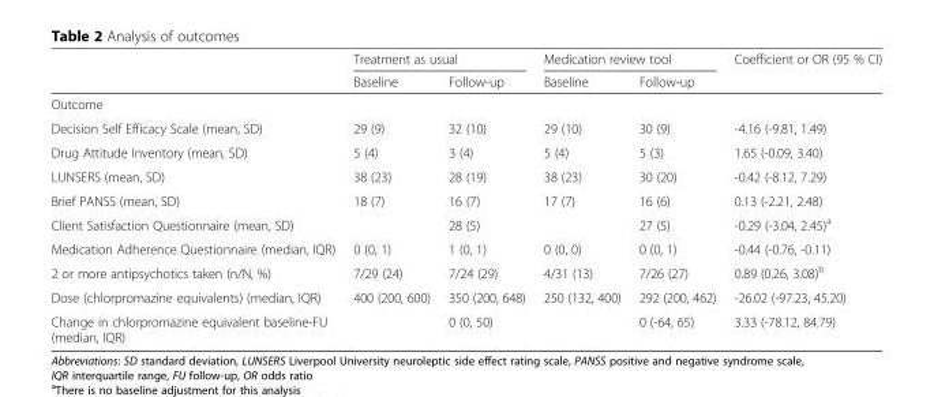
<table><thead><tr><td rowspan="2"></td><td colspan="2">Treatment as usual</td><td colspan="2">Medication review tool</td><td rowspan="2">Coefficient or OR (95 % CI)</td></tr><tr><td>Baseline</td><td>Follow-up</td><td>Baseline</td><td>Follow-up</td></tr></thead><tbody><tr><td colspan="6">Outcome</td></tr><tr><td>Decision Self Efficacy Scale (mean, SD)</td><td>29 (9)</td><td>32 (10)</td><td>29 (10)</td><td>30 (9)</td><td>-4.16 (-9.81, 1.49)</td></tr><tr><td>Drug Attitude Inventory (mean, SD)</td><td>5 (4)</td><td>3 (4)</td><td>5 (4)</td><td>5 (3)</td><td>1.65 (-0.09, 3.40)</td></tr><tr><td>LUNSERS (mean, SD)</td><td>38 (23)</td><td>28 (19)</td><td>38 (23)</td><td>30 (20)</td><td>-0.42 (-8.12, 7.29)</td></tr><tr><td>Brief PANSS (mean, SD)</td><td>18 (7)</td><td>16 (7)</td><td>17 (7)</td><td>16 (6)</td><td>0.13 (-2.21, 2.48)</td></tr><tr><td>Client Satisfaction Questionnaire (mean, SD)</td><td></td><td>28 (5)</td><td></td><td>27 (5)</td><td>-0.29 (-3.04, 2.45)<sup>a</sup></td></tr><tr><td>Medication Adherence Questionnaire (median, IQR)</td><td>0 (0, 1)</td><td>1 (0, 1)</td><td>0 (0, 0)</td><td>0 (0, 1)</td><td>-0.44 (-0.76, -0.11)</td></tr><tr><td>2 or more antipsychotics taken (n/N, %)</td><td>7/29 (24)</td><td>7/24 (29)</td><td>4/31 (13)</td><td>7/26 (27)</td><td>0.89 (0.26, 3.08)<sup>b</sup></td></tr><tr><td>Dose (chlorpromazine equivalents) (median, IQR)</td><td>400 (200, 600)</td><td>350 (200, 648)</td><td>250 (132, 400)</td><td>292 (200, 462)</td><td>-26.02 (-97.23, 45.20)</td></tr><tr><td>Change in chlorpromazine equivalent baseline-FU (median, IQR)</td><td></td><td>0 (0, 50)</td><td></td><td>0 (-64, 65)</td><td>3.33 (-78.12, 84.79)</td></tr></tbody></table>